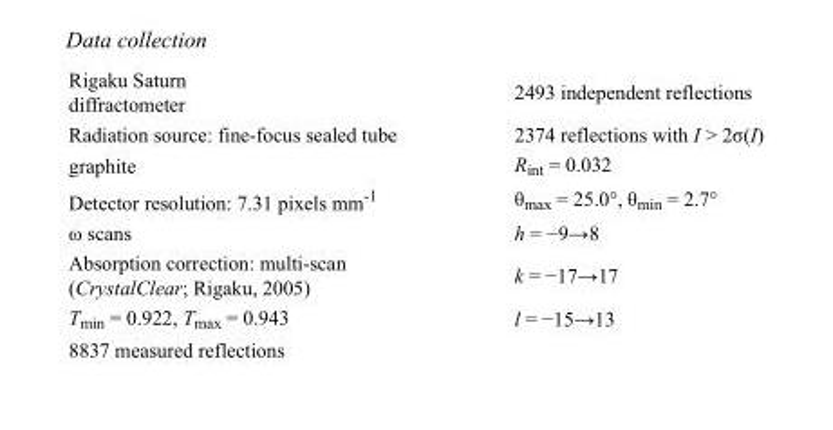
<table><tbody><tr><td>Rigaku Saturn diffractometer</td><td>2493 independent reflections</td></tr><tr><td>Radiation source: fine-focus sealed tube</td><td>2374 reflections with I &gt; 2σ(I)</td></tr><tr><td>graphite</td><td>R<sub>int</sub> = 0.032</td></tr><tr><td>Detector resolution: 7.31 pixels mm<sup>-1</sup></td><td>θ<sub>max</sub> = 25.0°, θ<sub>min</sub> = 2.7°</td></tr><tr><td>ω scans</td><td>h = −9→8</td></tr><tr><td>Absorption correction: multi-scan (CrystalClear; Rigaku, 2005)</td><td>k = −17→17</td></tr><tr><td>T<sub>min</sub> = 0.922, T<sub>max</sub> = 0.943</td><td>l = −15→13</td></tr><tr><td>8837 measured reflections</td><td></td></tr></tbody></table>